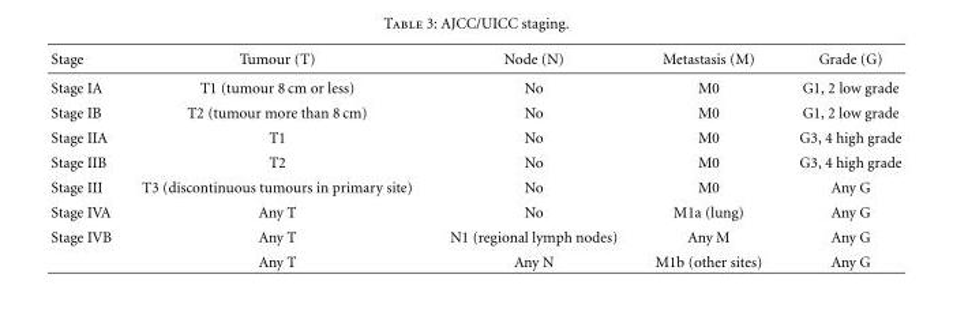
<table><thead><tr><td>Stage</td><td>Tumour (T)</td><td>Node (N)</td><td>Metastasis (M)</td><td>Grade (G)</td></tr></thead><tbody><tr><td>Stage IA</td><td>T1 (tumour 8 cm or less)</td><td>No</td><td>M0</td><td>G1, 2 low grade</td></tr><tr><td>Stage IB</td><td>T2 (tumour more than 8 cm)</td><td>No</td><td>M0</td><td>G1, 2 low grade</td></tr><tr><td>Stage IIA</td><td>T1</td><td>No</td><td>M0</td><td>G3, 4 high grade</td></tr><tr><td>Stage IIB</td><td>T2</td><td>No</td><td>M0</td><td>G3, 4 high grade</td></tr><tr><td>Stage III</td><td>T3 (discontinuous tumours in primary site)</td><td>No</td><td>M0</td><td>Any G</td></tr><tr><td>Stage IVA</td><td>Any T</td><td>No</td><td>M1a (lung)</td><td>Any G</td></tr><tr><td rowspan="2">Stage IVB</td><td>Any T</td><td>N1 (regional lymph nodes)</td><td>Any M</td><td>Any G</td></tr><tr><td>Any T</td><td>Any N</td><td>M1b (other sites)</td><td>Any G</td></tr></tbody></table>